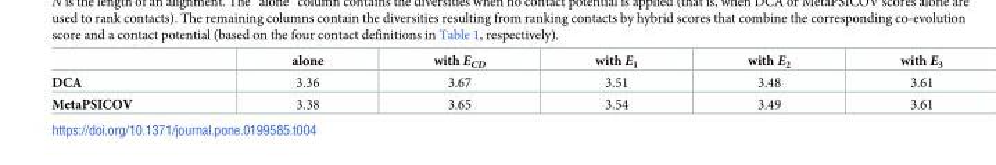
<table><thead><tr><td></td><td>alone</td><td>with E<sub>CD</sub></td><td>with E<sub>1</sub></td><td>with E<sub>2</sub></td><td>with E<sub>3</sub></td></tr></thead><tbody><tr><td>DCA</td><td>3.36</td><td>3.67</td><td>3.51</td><td>3.48</td><td>3.61</td></tr><tr><td>MetaPSICOV</td><td>3.38</td><td>3.65</td><td>3.54</td><td>3.49</td><td>3.61</td></tr></tbody></table>